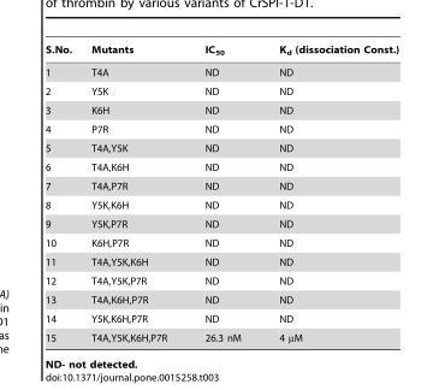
<table><thead><tr><td>S.No.</td><td>Mutants</td><td>IC<sub>50</sub></td><td>K<sub>d</sub> (dissociation Const.)</td></tr></thead><tbody><tr><td>1</td><td>T4A</td><td>ND</td><td>ND</td></tr><tr><td>2</td><td>Y5K</td><td>ND</td><td>ND</td></tr><tr><td>3</td><td>K6H</td><td>ND</td><td>ND</td></tr><tr><td>4</td><td>P7R</td><td>ND</td><td>ND</td></tr><tr><td>5</td><td>T4A,Y5K</td><td>ND</td><td>ND</td></tr><tr><td>6</td><td>T4A,K6H</td><td>ND</td><td>ND</td></tr><tr><td>7</td><td>T4A,P7R</td><td>ND</td><td>ND</td></tr><tr><td>8</td><td>Y5K,K6H</td><td>ND</td><td>ND</td></tr><tr><td>9</td><td>Y5K,P7R</td><td>ND</td><td>ND</td></tr><tr><td>10</td><td>K6H,P7R</td><td>ND</td><td>ND</td></tr><tr><td>11</td><td>T4A,Y5K,K6H</td><td>ND</td><td>ND</td></tr><tr><td>12</td><td>T4A,Y5K,P7R</td><td>ND</td><td>ND</td></tr><tr><td>13</td><td>T4A,K6H,P7R</td><td>ND</td><td>ND</td></tr><tr><td>14</td><td>Y5K,K6H,P7R</td><td>ND</td><td>ND</td></tr><tr><td>15</td><td>T4A,Y5K,K6H,P7R</td><td>26.3 nM</td><td>4 µM</td></tr></tbody></table>